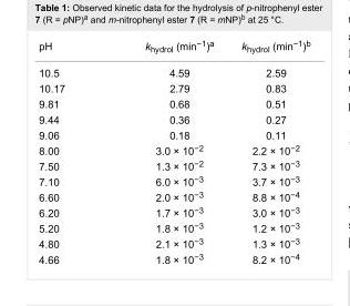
<table><tbody><tr><td>pH</td><td>k<sub>hydrol</sub> (min<sup>−1</sup>)<sup>a</sup></td><td>k<sub>hydrol</sub> (min<sup>−1</sup>)<sup>b</sup></td></tr><tr><td>10.5</td><td>4.59</td><td>2.59</td></tr><tr><td>10.17</td><td>2.79</td><td>0.83</td></tr><tr><td>9.81</td><td>0.68</td><td>0.51</td></tr><tr><td>9.44</td><td>0.36</td><td>0.27</td></tr><tr><td>9.06</td><td>0.18</td><td>0.11</td></tr><tr><td>8.00</td><td>3.0 × 10<sup>−2</sup></td><td>2.2 × 10<sup>−2</sup></td></tr><tr><td>7.50</td><td>1.3 × 10<sup>−2</sup></td><td>7.3 × 10<sup>−3</sup></td></tr><tr><td>7.10</td><td>6.0 × 10<sup>−3</sup></td><td>3.7 × 10<sup>−3</sup></td></tr><tr><td>6.60</td><td>2.0 × 10<sup>−3</sup></td><td>8.8 × 10<sup>−4</sup></td></tr><tr><td>6.20</td><td>1.7 × 10<sup>−3</sup></td><td>3.0 × 10<sup>−3</sup></td></tr><tr><td>5.20</td><td>1.8 × 10<sup>−3</sup></td><td>1.2 × 10<sup>−3</sup></td></tr><tr><td>4.80</td><td>2.1 × 10<sup>−3</sup></td><td>1.3 × 10<sup>−3</sup></td></tr><tr><td>4.66</td><td>1.8 × 10<sup>−3</sup></td><td>8.2 × 10<sup>−4</sup></td></tr></tbody></table>